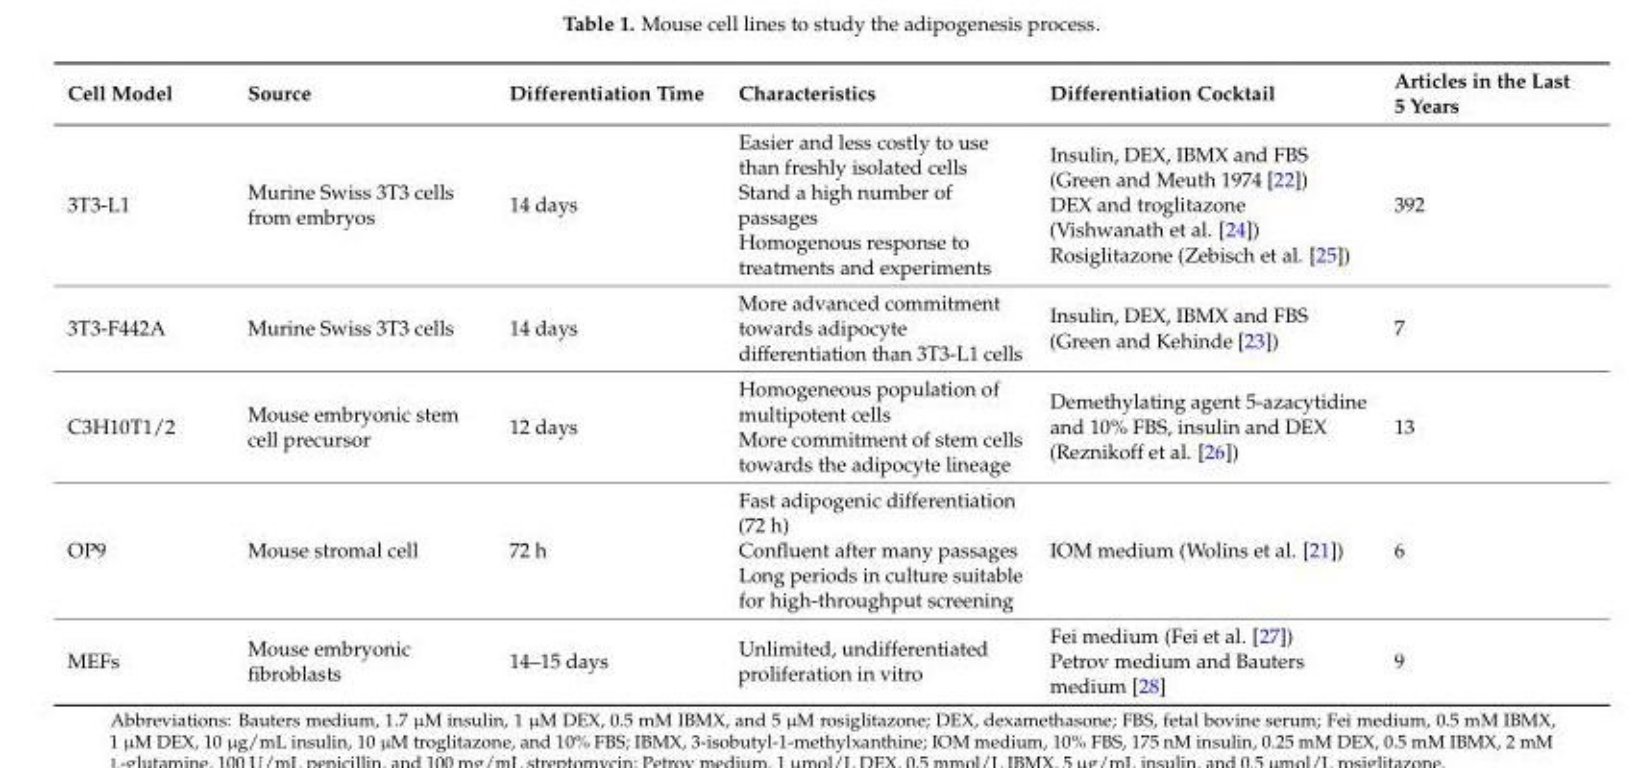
<table><thead><tr><td>Cell Model</td><td>Source</td><td>Differentiation Time</td><td>Characteristics</td><td>Differentiation Cocktail</td><td>Articles in the Last 5 Years</td></tr></thead><tbody><tr><td>3T3-L1</td><td>Murine Swiss 3T3 cells from embryos</td><td>14 days</td><td>Easier and less costly to use than freshly isolated cells Stand a high number of passages Homogenous response to treatments and experiments</td><td>Insulin, DEX, IBMX and FBS (Green and Meuth 1974 [22]) DEX and troglitazone (Vishwanath et al. [24]) Rosiglitazone (Zebisch et al. [25])</td><td>392</td></tr><tr><td>3T3-F442A</td><td>Murine Swiss 3T3 cells</td><td>14 days</td><td>More advanced commitment towards adipocyte differentiation than 3T3-L1 cells</td><td>Insulin, DEX, IBMX and FBS (Green and Kehinde [23])</td><td>7</td></tr><tr><td>C3H10T1/2</td><td>Mouse embryonic stem cell precursor</td><td>12 days</td><td>Homogeneous population of multipotent cells More commitment of stem cells towards the adipocyte lineage</td><td>Demethylating agent 5-azacytidine and 10% FBS, insulin and DEX (Reznikoff et al. [26])</td><td>13</td></tr><tr><td>OP9</td><td>Mouse stromal cell</td><td>72 h</td><td>Fast adipogenic differentiation (72 h) Confluent after many passages Long periods in culture suitable for high-throughput screening</td><td>IOM medium (Wolins et al. [21])</td><td>6</td></tr><tr><td>MEFs</td><td>Mouse embryonic fibroblasts</td><td>14–15 days</td><td>Unlimited, undifferentiated proliferation in vitro</td><td>Fei medium (Fei et al. [27]) Petrov medium and Bauters medium [28]</td><td>9</td></tr></tbody></table>